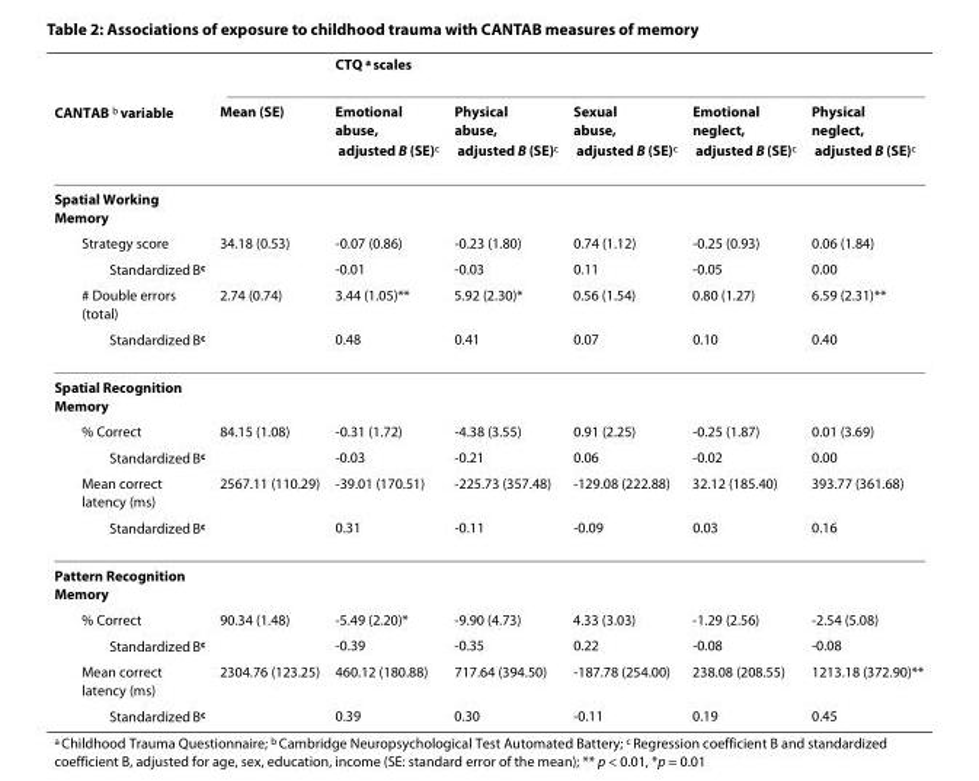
<table><thead><tr><td rowspan="2">CANTAB <sup>b</sup> variable</td><td rowspan="2">Mean (SE)</td><td rowspan="2">CTQ <sup>a</sup> scales Emotional abuse, adjusted B (SE)<sup>c</sup></td><td rowspan="2">Physical abuse, adjusted B (SE)<sup>c</sup></td><td rowspan="2">Sexual abuse, adjusted B (SE)<sup>c</sup></td><td rowspan="2">Emotional neglect, adjusted B (SE)<sup>c</sup></td><td rowspan="2">Physical neglect, adjusted B (SE)<sup>c</sup></td></tr><tr></tr></thead><tbody><tr><td colspan="7">Spatial Working Memory</td></tr><tr><td>Strategy score</td><td>34.18 (0.53)</td><td>-0.07 (0.86)</td><td>-0.23 (1.80)</td><td>0.74 (1.12)</td><td>-0.25 (0.93)</td><td>0.06 (1.84)</td></tr><tr><td>Standardized B<sup>c</sup></td><td></td><td>-0.01</td><td>-0.03</td><td>0.11</td><td>-0.05</td><td>0.00</td></tr><tr><td># Double errors (total)</td><td>2.74 (0.74)</td><td>3.44 (1.05)**</td><td>5.92 (2.30)*</td><td>0.56 (1.54)</td><td>0.80 (1.27)</td><td>6.59 (2.31)**</td></tr><tr><td>Standardized B<sup>c</sup></td><td></td><td>0.48</td><td>0.41</td><td>0.07</td><td>0.10</td><td>0.40</td></tr><tr><td colspan="7">Spatial Recognition Memory</td></tr><tr><td>% Correct</td><td>84.15 (1.08)</td><td>-0.31 (1.72)</td><td>-4.38 (3.55)</td><td>0.91 (2.25)</td><td>-0.25 (1.87)</td><td>0.01 (3.69)</td></tr><tr><td>Standardized B<sup>c</sup></td><td></td><td>-0.03</td><td>-0.21</td><td>0.06</td><td>-0.02</td><td>0.00</td></tr><tr><td>Mean correct latency (ms)</td><td>2567.11 (110.29)</td><td>-39.01 (170.51)</td><td>-225.73 (357.48)</td><td>-129.08 (222.88)</td><td>32.12 (185.40)</td><td>393.77 (361.68)</td></tr><tr><td>Standardized B<sup>c</sup></td><td></td><td>0.31</td><td>-0.11</td><td>-0.09</td><td>0.03</td><td>0.16</td></tr><tr><td colspan="7">Pattern Recognition Memory</td></tr><tr><td>% Correct</td><td>90.34 (1.48)</td><td>-5.49 (2.20)*</td><td>-9.90 (4.73)</td><td>4.33 (3.03)</td><td>-1.29 (2.56)</td><td>-2.54 (5.08)</td></tr><tr><td>Standardized B<sup>c</sup></td><td></td><td>-0.39</td><td>-0.35</td><td>0.22</td><td>-0.08</td><td>-0.08</td></tr><tr><td>Mean correct latency (ms)</td><td>2304.76 (123.25)</td><td>460.12 (180.88)</td><td>717.64 (394.50)</td><td>-187.78 (254.00)</td><td>238.08 (208.55)</td><td>1213.18 (372.90)**</td></tr><tr><td>Standardized B<sup>c</sup></td><td></td><td>0.39</td><td>0.30</td><td>-0.11</td><td>0.19</td><td>0.45</td></tr></tbody></table>